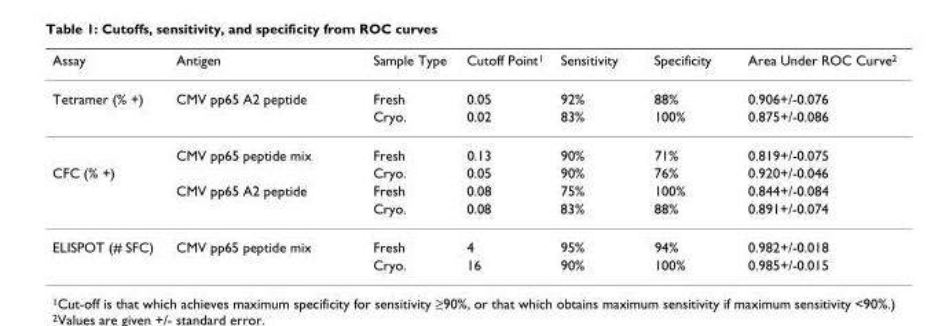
<table><thead><tr><td>Assay</td><td>Antigen</td><td>Sample Type</td><td>Cutoff Point1</td><td>Sensitivity</td><td>Specificity</td><td>Area Under ROC Curve2</td></tr></thead><tbody><tr><td rowspan="3">Tetramer (% +)</td><td>CMV pp65 A2 peptide</td><td>Fresh</td><td>0.05</td><td>92%</td><td>88%</td><td>0.906+/-0.076</td></tr><tr><td></td><td>Cryo.</td><td>0.02</td><td>83%</td><td>100%</td><td>0.875+/-0.086</td></tr><tr><td>CMV pp65 peptide mix</td><td>Fresh</td><td>0.13</td><td>90%</td><td>71%</td><td>0.819+/-0.075</td></tr><tr><td rowspan="3">CFC (% +)</td><td></td><td>Cryo.</td><td>0.05</td><td>90%</td><td>76%</td><td>0.920+/-0.046</td></tr><tr><td>CMV pp65 A2 peptide</td><td>Fresh</td><td>0.08</td><td>75%</td><td>100%</td><td>0.844+/-0.084</td></tr><tr><td></td><td>Cryo.</td><td>0.08</td><td>83%</td><td>88%</td><td>0.891+/-0.074</td></tr><tr><td rowspan="2">ELISPOT (# SFC)</td><td>CMV pp65 peptide mix</td><td>Fresh</td><td>4</td><td>95%</td><td>94%</td><td>0.982+/-0.018</td></tr><tr><td></td><td>Cryo.</td><td>16</td><td>90%</td><td>100%</td><td>0.985+/-0.015</td></tr></tbody></table>